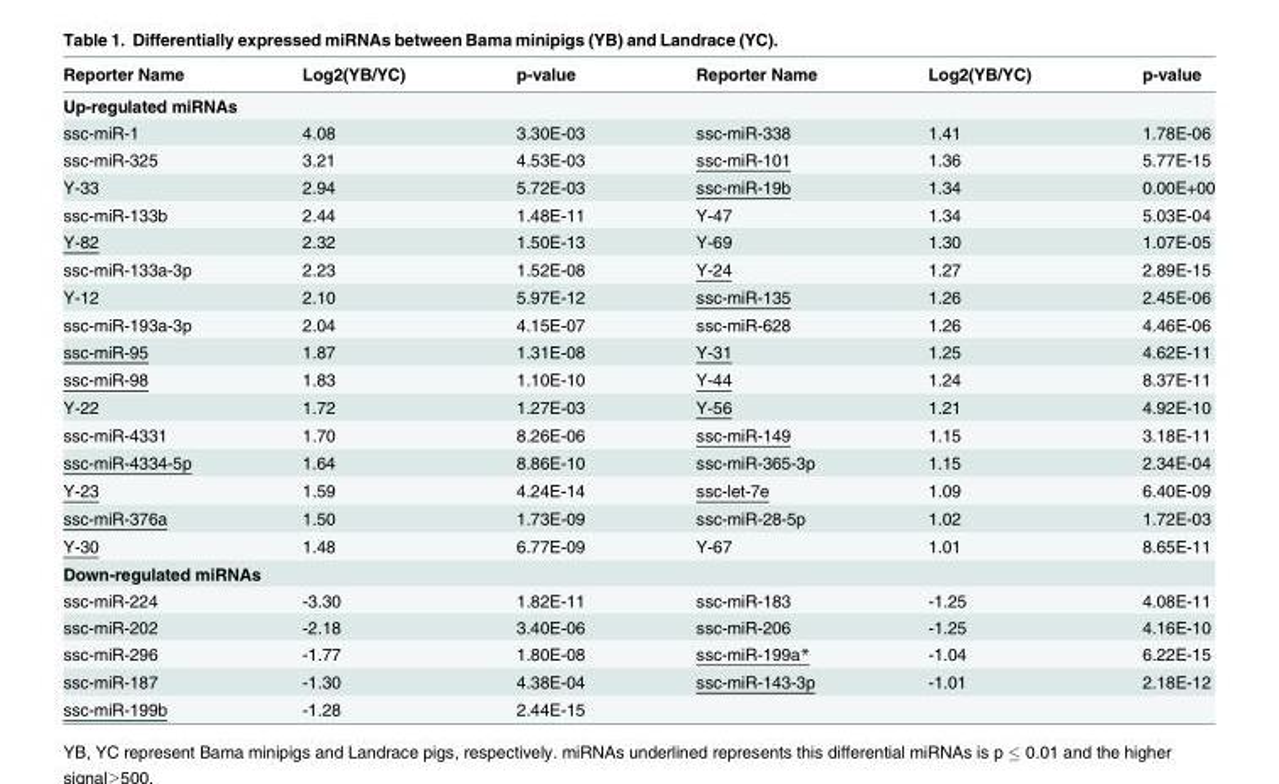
<table><thead><tr><td>Reporter Name</td><td>Log2(YB/YC)</td><td>p-value</td><td>Reporter Name</td><td>Log2(YB/YC)</td><td>p-value</td></tr></thead><tbody><tr><td colspan="6">Up-regulated miRNAs</td></tr><tr><td>ssc-miR-1</td><td>4.08</td><td>3.30E-03</td><td>ssc-miR-338</td><td>1.41</td><td>1.78E-06</td></tr><tr><td>ssc-miR-325</td><td>3.21</td><td>4.53E-03</td><td>ssc-miR-101</td><td>1.36</td><td>5.77E-15</td></tr><tr><td>Y-33</td><td>2.94</td><td>5.72E-03</td><td>ssc-miR-19b</td><td>1.34</td><td>0.00E+00</td></tr><tr><td>ssc-miR-133b</td><td>2.44</td><td>1.48E-11</td><td>Y-47</td><td>1.34</td><td>5.03E-04</td></tr><tr><td>Y-82</td><td>2.32</td><td>1.50E-13</td><td>Y-69</td><td>1.30</td><td>1.07E-05</td></tr><tr><td>ssc-miR-133a-3p</td><td>2.23</td><td>1.52E-08</td><td>Y-24</td><td>1.27</td><td>2.89E-15</td></tr><tr><td>Y-12</td><td>2.10</td><td>5.97E-12</td><td>ssc-miR-135</td><td>1.26</td><td>2.45E-06</td></tr><tr><td>ssc-miR-193a-3p</td><td>2.04</td><td>4.15E-07</td><td>ssc-miR-628</td><td>1.26</td><td>4.46E-06</td></tr><tr><td>ssc-miR-95</td><td>1.87</td><td>1.31E-08</td><td>Y-31</td><td>1.25</td><td>4.62E-11</td></tr><tr><td>ssc-miR-98</td><td>1.83</td><td>1.10E-10</td><td>Y-44</td><td>1.24</td><td>8.37E-11</td></tr><tr><td>Y-22</td><td>1.72</td><td>1.27E-03</td><td>Y-56</td><td>1.21</td><td>4.92E-10</td></tr><tr><td>ssc-miR-4331</td><td>1.70</td><td>8.26E-06</td><td>ssc-miR-149</td><td>1.15</td><td>3.18E-11</td></tr><tr><td>ssc-miR-4334-5p</td><td>1.64</td><td>8.86E-10</td><td>ssc-miR-365-3p</td><td>1.15</td><td>2.34E-04</td></tr><tr><td>Y-23</td><td>1.59</td><td>4.24E-14</td><td>ssc-let-7e</td><td>1.09</td><td>6.40E-09</td></tr><tr><td>ssc-miR-376a</td><td>1.50</td><td>1.73E-09</td><td>ssc-miR-28-5p</td><td>1.02</td><td>1.72E-03</td></tr><tr><td>Y-30</td><td>1.48</td><td>6.77E-09</td><td>Y-67</td><td>1.01</td><td>8.65E-11</td></tr><tr><td colspan="6">Down-regulated miRNAs</td></tr><tr><td>ssc-miR-224</td><td>-3.30</td><td>1.82E-11</td><td>ssc-miR-183</td><td>-1.25</td><td>4.08E-11</td></tr><tr><td>ssc-miR-202</td><td>-2.18</td><td>3.40E-06</td><td>ssc-miR-206</td><td>-1.25</td><td>4.16E-10</td></tr><tr><td>ssc-miR-296</td><td>-1.77</td><td>1.80E-08</td><td>ssc-miR-199a*</td><td>-1.04</td><td>6.22E-15</td></tr><tr><td>ssc-miR-187</td><td>-1.30</td><td>4.38E-04</td><td>ssc-miR-143-3p</td><td>-1.01</td><td>2.18E-12</td></tr><tr><td>ssc-miR-199b</td><td>-1.28</td><td>2.44E-15</td><td></td><td></td><td></td></tr></tbody></table>